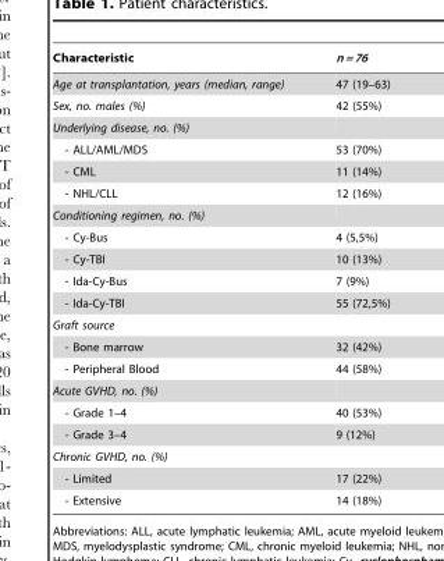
<table><thead><tr><td>Characteristic</td><td>n = 76</td></tr></thead><tbody><tr><td>Age at transplantation, years (median, range)</td><td>47 (19–63)</td></tr><tr><td>Sex, no. males (%)</td><td>42 (55%)</td></tr><tr><td colspan="2">Underlying disease, no. (%)</td></tr><tr><td>- ALL/AML/MDS</td><td>53 (70%)</td></tr><tr><td>- CML</td><td>11 (14%)</td></tr><tr><td>- NHL/CLL</td><td>12 (16%)</td></tr><tr><td colspan="2">Conditioning regimen, no. (%)</td></tr><tr><td>- Cy-Bus</td><td>4 (5,5%)</td></tr><tr><td>- Cy-TBI</td><td>10 (13%)</td></tr><tr><td>- Ida-Cy-Bus</td><td>7 (9%)</td></tr><tr><td>- Ida-Cy-TBI</td><td>55 (72,5%)</td></tr><tr><td colspan="2">Graft source</td></tr><tr><td>- Bone marrow</td><td>32 (42%)</td></tr><tr><td>- Peripheral Blood</td><td>44 (58%)</td></tr><tr><td colspan="2">Acute GVHD, no. (%)</td></tr><tr><td>- Grade 1–4</td><td>40 (53%)</td></tr><tr><td>- Grade 3–4</td><td>9 (12%)</td></tr><tr><td colspan="2">Chronic GVHD, no. (%)</td></tr><tr><td>- Limited</td><td>17 (22%)</td></tr><tr><td>- Extensive</td><td>14 (18%)</td></tr></tbody></table>